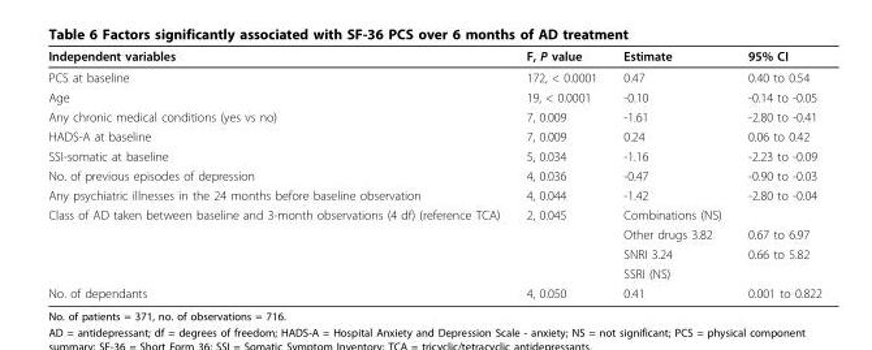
<table><thead><tr><td>Independent variables</td><td>F, P value</td><td>Estimate</td><td>95% CI</td></tr></thead><tbody><tr><td>PCS at baseline</td><td>172, &lt; 0.0001</td><td>0.47</td><td>0.40 to 0.54</td></tr><tr><td>Age</td><td>19, &lt; 0.0001</td><td>-0.10</td><td>-0.14 to -0.05</td></tr><tr><td>Any chronic medical conditions (yes vs no)</td><td>7, 0.009</td><td>-1.61</td><td>-2.80 to -0.41</td></tr><tr><td>HADS-A at baseline</td><td>7, 0.009</td><td>0.24</td><td>0.06 to 0.42</td></tr><tr><td>SSI-somatic at baseline</td><td>5, 0.034</td><td>-1.16</td><td>-2.23 to -0.09</td></tr><tr><td>No. of previous episodes of depression</td><td>4, 0.036</td><td>-0.47</td><td>-0.90 to -0.03</td></tr><tr><td>Any psychiatric illnesses in the 24 months before baseline observation</td><td>4, 0.044</td><td>-1.42</td><td>-2.80 to -0.04</td></tr><tr><td rowspan="4">Class of AD taken between baseline and 3-month observations (4 df) (reference TCA)</td><td>2, 0.045</td><td>Combinations (NS)</td><td></td></tr><tr><td></td><td>Other drugs 3.82</td><td>0.67 to 6.97</td></tr><tr><td></td><td>SNRI 3.24</td><td>0.66 to 5.82</td></tr><tr><td></td><td>SSRI (NS)</td><td></td></tr><tr><td>No. of dependants</td><td>4, 0.050</td><td>0.41</td><td>0.001 to 0.822</td></tr></tbody></table>